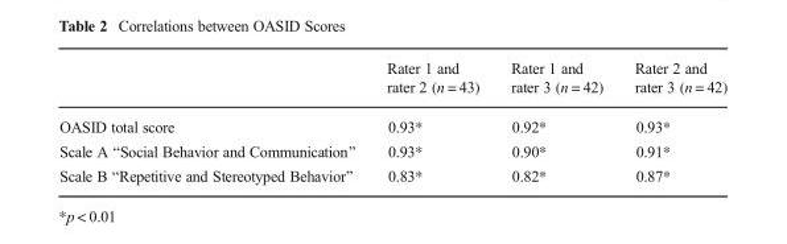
<table><thead><tr><td></td><td>Rater 1 and rater 2 (n = 43)</td><td>Rater 1 and rater 3 (n = 42)</td><td>Rater 2 and rater 3 (n = 42)</td></tr></thead><tbody><tr><td>OASID total score</td><td>0.93*</td><td>0.92*</td><td>0.93*</td></tr><tr><td>Scale A “Social Behavior and Communication”</td><td>0.93*</td><td>0.90*</td><td>0.91*</td></tr><tr><td>Scale B “Repetitive and Stereotyped Behavior”</td><td>0.83*</td><td>0.82*</td><td>0.87*</td></tr></tbody></table>